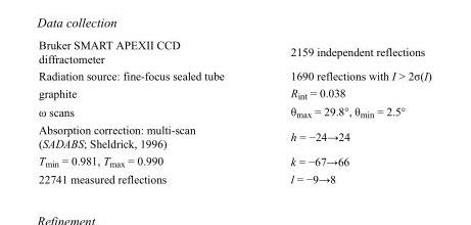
<table><tbody><tr><td>Bruker SMART APEXII CCD diffractometer</td><td>2159 independent reflections</td></tr><tr><td>Radiation source: fine-focus sealed tube</td><td>1690 reflections with I &gt; 2σ(I)</td></tr><tr><td>graphite</td><td>R<sub>int</sub> = 0.038</td></tr><tr><td>ω scans</td><td>θ<sub>max</sub> = 29.8°, θ<sub>min</sub> = 2.5°</td></tr><tr><td>Absorption correction: multi-scan (SADABS; Sheldrick, 1996)</td><td>h = −24→24</td></tr><tr><td>T<sub>min</sub> = 0.981, T<sub>max</sub> = 0.990</td><td>k = −67→66</td></tr><tr><td>22741 measured reflections</td><td>l = −9→8</td></tr></tbody></table>